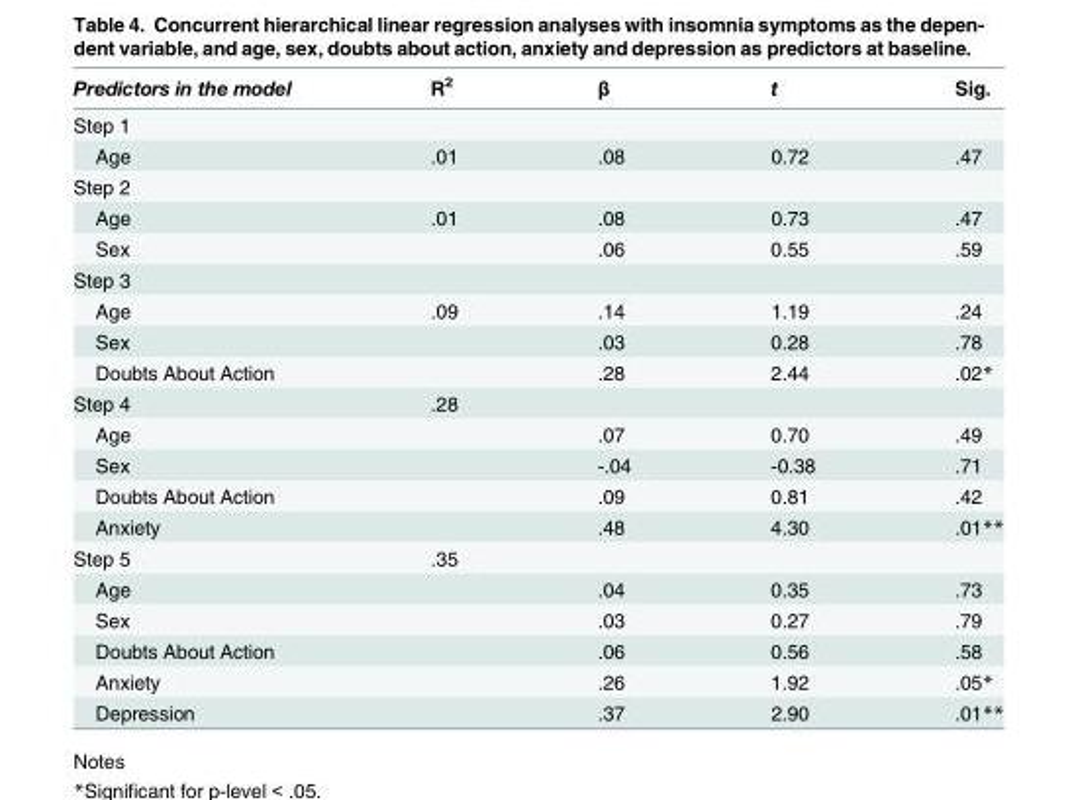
<table><thead><tr><td>Predictors in the model</td><td>R<sup>2</sup></td><td>β</td><td>t</td><td>Sig.</td></tr></thead><tbody><tr><td colspan="5">Step 1</td></tr><tr><td>Age</td><td>.01</td><td>.08</td><td>0.72</td><td>.47</td></tr><tr><td colspan="5">Step 2</td></tr><tr><td>Age</td><td>.01</td><td>.08</td><td>0.73</td><td>.47</td></tr><tr><td>Sex</td><td></td><td>.06</td><td>0.55</td><td>.59</td></tr><tr><td colspan="5">Step 3</td></tr><tr><td>Age</td><td>.09</td><td>.14</td><td>1.19</td><td>.24</td></tr><tr><td>Sex</td><td></td><td>.03</td><td>0.28</td><td>.78</td></tr><tr><td>Doubts About Action</td><td></td><td>.28</td><td>2.44</td><td>.02*</td></tr><tr><td>Step 4</td><td>.28</td><td></td><td></td><td></td></tr><tr><td>Age</td><td></td><td>.07</td><td>0.70</td><td>.49</td></tr><tr><td>Sex</td><td></td><td>-.04</td><td>-0.38</td><td>.71</td></tr><tr><td>Doubts About Action</td><td></td><td>.09</td><td>0.81</td><td>.42</td></tr><tr><td>Anxiety</td><td></td><td>.48</td><td>4.30</td><td>.01**</td></tr><tr><td>Step 5</td><td>.35</td><td></td><td></td><td></td></tr><tr><td>Age</td><td></td><td>.04</td><td>0.35</td><td>.73</td></tr><tr><td>Sex</td><td></td><td>.03</td><td>0.27</td><td>.79</td></tr><tr><td>Doubts About Action</td><td></td><td>.06</td><td>0.56</td><td>.58</td></tr><tr><td>Anxiety</td><td></td><td>.26</td><td>1.92</td><td>.05*</td></tr><tr><td>Depression</td><td></td><td>.37</td><td>2.90</td><td>.01**</td></tr></tbody></table>